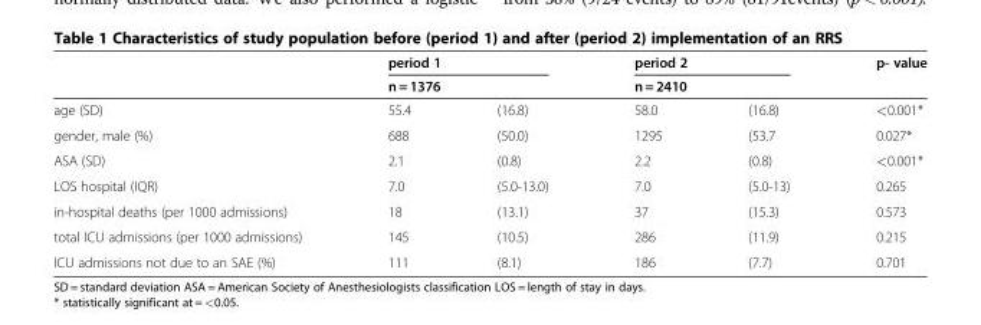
<table><thead><tr><td rowspan="3">age (SD)</td><td rowspan="2" colspan="2">period 1 n = 1376</td><td rowspan="2" colspan="2">period 2 n = 2410</td><td rowspan="3">p- value &lt;0.001*</td></tr><tr></tr><tr><td>55.4</td><td>(16.8)</td><td>58.0</td><td>(16.8)</td></tr></thead><tbody><tr><td>gender, male (%)</td><td>688</td><td>(50.0)</td><td>1295</td><td>(53.7</td><td>0.027*</td></tr><tr><td>ASA (SD)</td><td>2.1</td><td>(0.8)</td><td>2.2</td><td>(0.8)</td><td>&lt;0.001*</td></tr><tr><td>LOS hospital (IQR)</td><td>7.0</td><td>(5.0-13.0)</td><td>7.0</td><td>(5.0-13)</td><td>0.265</td></tr><tr><td>in-hospital deaths (per 1000 admissions)</td><td>18</td><td>(13.1)</td><td>37</td><td>(15.3)</td><td>0.573</td></tr><tr><td>total ICU admissions (per 1000 admissions)</td><td>145</td><td>(10.5)</td><td>286</td><td>(11.9)</td><td>0.215</td></tr><tr><td>ICU admissions not due to an SAE (%)</td><td>111</td><td>(8.1)</td><td>186</td><td>(7.7)</td><td>0.701</td></tr></tbody></table>